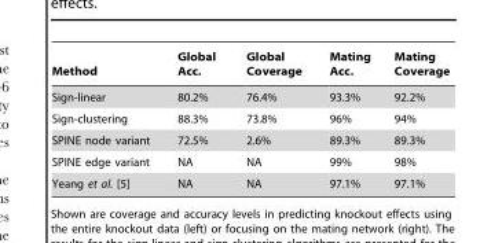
<table><thead><tr><td>Method</td><td>Global Acc.</td><td>Global Coverage</td><td>Mating Acc.</td><td>Mating Coverage</td></tr></thead><tbody><tr><td>Sign-linear</td><td>80.2%</td><td>76.4%</td><td>93.3%</td><td>92.2%</td></tr><tr><td>Sign-clustering</td><td>88.3%</td><td>73.8%</td><td>96%</td><td>94%</td></tr><tr><td>SPINE node variant</td><td>72.5%</td><td>2.6%</td><td>89.3%</td><td>89.3%</td></tr><tr><td>SPINE edge variant</td><td>NA</td><td>NA</td><td>99%</td><td>98%</td></tr><tr><td>Yeang et al. [5]</td><td>NA</td><td>NA</td><td>97.1%</td><td>97.1%</td></tr></tbody></table>